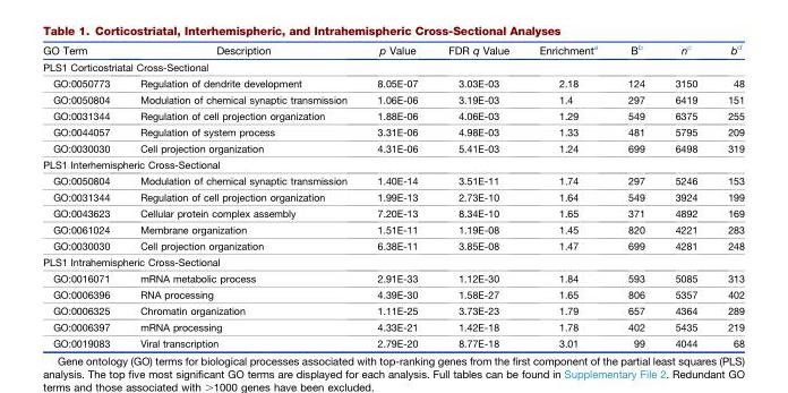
<table><thead><tr><td>GO Term</td><td>Description</td><td>p Value</td><td>FDR q Value</td><td>Enrichment<sup>a</sup></td><td>B<sup>b</sup></td><td>n<sup>c</sup></td><td>b<sup>d</sup></td></tr></thead><tbody><tr><td colspan="8">PLS1 Corticostriatal Cross-Sectional</td></tr><tr><td>GO:0050773</td><td>Regulation of dendrite development</td><td>8.05E-07</td><td>3.03E-03</td><td>2.18</td><td>124</td><td>3150</td><td>48</td></tr><tr><td>GO:0050804</td><td>Modulation of chemical synaptic transmission</td><td>1.06E-06</td><td>3.19E-03</td><td>1.4</td><td>297</td><td>6419</td><td>151</td></tr><tr><td>GO:0031344</td><td>Regulation of cell projection organization</td><td>1.88E-06</td><td>4.06E-03</td><td>1.29</td><td>549</td><td>6375</td><td>255</td></tr><tr><td>GO:0044057</td><td>Regulation of system process</td><td>3.31E-06</td><td>4.98E-03</td><td>1.33</td><td>481</td><td>5795</td><td>209</td></tr><tr><td>GO:0030030</td><td>Cell projection organization</td><td>4.31E-06</td><td>5.41E-03</td><td>1.24</td><td>699</td><td>6498</td><td>319</td></tr><tr><td colspan="8">PLS1 Interhemispheric Cross-Sectional</td></tr><tr><td>GO:0050804</td><td>Modulation of chemical synaptic transmission</td><td>1.40E-14</td><td>3.51E-11</td><td>1.74</td><td>297</td><td>5246</td><td>153</td></tr><tr><td>GO:0031344</td><td>Regulation of cell projection organization</td><td>1.99E-13</td><td>2.73E-10</td><td>1.64</td><td>549</td><td>3924</td><td>199</td></tr><tr><td>GO:0043623</td><td>Cellular protein complex assembly</td><td>7.20E-13</td><td>8.34E-10</td><td>1.65</td><td>371</td><td>4892</td><td>169</td></tr><tr><td>GO:0061024</td><td>Membrane organization</td><td>1.51E-11</td><td>1.19E-08</td><td>1.45</td><td>820</td><td>4221</td><td>283</td></tr><tr><td>GO:0030030</td><td>Cell projection organization</td><td>6.38E-11</td><td>3.85E-08</td><td>1.47</td><td>699</td><td>4281</td><td>248</td></tr><tr><td colspan="8">PLS1 Intrahemispheric Cross-Sectional</td></tr><tr><td>GO:0016071</td><td>mRNA metabolic process</td><td>2.91E-33</td><td>1.12E-30</td><td>1.84</td><td>593</td><td>5085</td><td>313</td></tr><tr><td>GO:0006396</td><td>RNA processing</td><td>4.39E-30</td><td>1.58E-27</td><td>1.65</td><td>806</td><td>5357</td><td>402</td></tr><tr><td>GO:0006325</td><td>Chromatin organization</td><td>1.11E-25</td><td>3.73E-23</td><td>1.79</td><td>657</td><td>4364</td><td>289</td></tr><tr><td>GO:0006397</td><td>mRNA processing</td><td>4.33E-21</td><td>1.42E-18</td><td>1.78</td><td>402</td><td>5435</td><td>219</td></tr><tr><td>GO:0019083</td><td>Viral transcription</td><td>2.79E-20</td><td>8.77E-18</td><td>3.01</td><td>99</td><td>4044</td><td>68</td></tr></tbody></table>